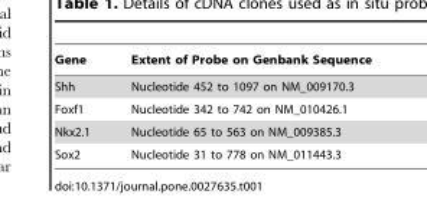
<table><thead><tr><td>Gene</td><td>Extent of Probe on Genbank Sequence</td></tr></thead><tbody><tr><td>Shh</td><td>Nucleotide 452 to 1097 on NM_009170.3</td></tr><tr><td>Foxf1</td><td>Nucleotide 342 to 742 on NM_010426.1</td></tr><tr><td>Nkx2.1</td><td>Nucleotide 65 to 563 on NM_009385.3</td></tr><tr><td>Sox2</td><td>Nucleotide 31 to 778 on NM_011443.3</td></tr></tbody></table>